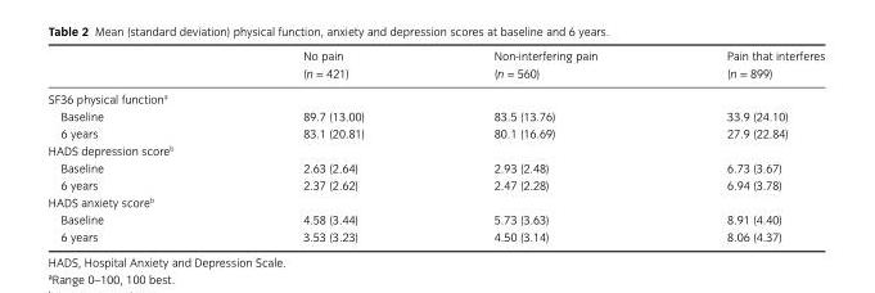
<table><thead><tr><td rowspan="2"></td><td rowspan="2">No pain (n = 421)</td><td rowspan="2">Non-interfering pain (n = 560)</td><td rowspan="2">Pain that interferes (n = 899)</td></tr><tr></tr></thead><tbody><tr><td colspan="4">SF36 physical function<sup>a</sup></td></tr><tr><td>Baseline</td><td>89.7 (13.00)</td><td>83.5 (13.76)</td><td>33.9 (24.10)</td></tr><tr><td>6 years</td><td>83.1 (20.81)</td><td>80.1 (16.69)</td><td>27.9 (22.84)</td></tr><tr><td colspan="4">HADS depression score<sup>b</sup></td></tr><tr><td>Baseline</td><td>2.63 (2.64)</td><td>2.93 (2.48)</td><td>6.73 (3.67)</td></tr><tr><td>6 years</td><td>2.37 (2.62)</td><td>2.47 (2.28)</td><td>6.94 (3.78)</td></tr><tr><td colspan="4">HADS anxiety score<sup>b</sup></td></tr><tr><td>Baseline</td><td>4.58 (3.44)</td><td>5.73 (3.63)</td><td>8.91 (4.40)</td></tr><tr><td>6 years</td><td>3.53 (3.23)</td><td>4.50 (3.14)</td><td>8.06 (4.37)</td></tr></tbody></table>